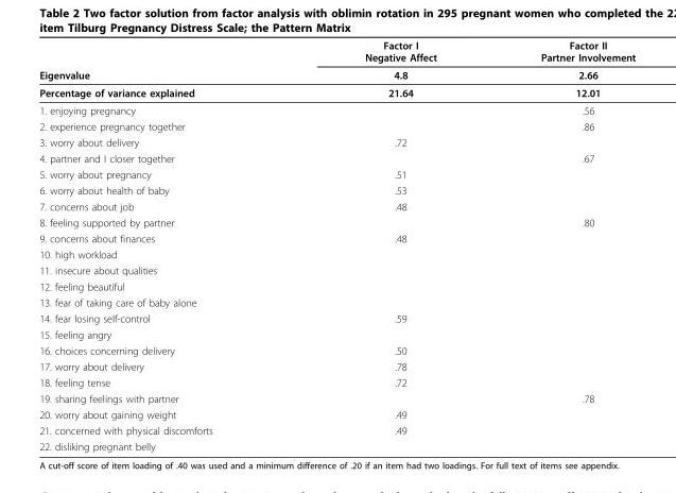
<table><thead><tr><td rowspan="2">Eigenvalue</td><td rowspan="2">Factor I Negative Affect 4.8</td><td rowspan="2">Factor II Partner Involvement 2.66</td></tr><tr></tr></thead><tbody><tr><td>Percentage of variance explained</td><td>21.64</td><td>12.01</td></tr><tr><td>1. enjoying pregnancy</td><td></td><td>.56</td></tr><tr><td>2. experience pregnancy together</td><td></td><td>.86</td></tr><tr><td>3. worry about delivery</td><td>.72</td><td></td></tr><tr><td>4. partner and I closer together</td><td></td><td>.67</td></tr><tr><td>5. worry about pregnancy</td><td>.51</td><td></td></tr><tr><td>6. worry about health of baby</td><td>.53</td><td></td></tr><tr><td>7. concerns about job</td><td>.48</td><td></td></tr><tr><td>8. feeling supported by partner</td><td></td><td>.80</td></tr><tr><td>9. concerns about finances</td><td>.48</td><td></td></tr><tr><td colspan="3">10. high workload</td></tr><tr><td colspan="3">11. insecure about qualities</td></tr><tr><td colspan="3">12. feeling beautiful</td></tr><tr><td colspan="3">13. fear of taking care of baby alone</td></tr><tr><td>14. fear losing self-control</td><td>.59</td><td></td></tr><tr><td colspan="3">15. feeling angry</td></tr><tr><td>16. choices concerning delivery</td><td>.50</td><td></td></tr><tr><td>17. worry about delivery</td><td>.78</td><td></td></tr><tr><td>18. feeling tense</td><td>.72</td><td></td></tr><tr><td>19. sharing feelings with partner</td><td></td><td>.78</td></tr><tr><td>20. worry about gaining weight</td><td>.49</td><td></td></tr><tr><td>21. concerned with physical discomforts</td><td>.49</td><td></td></tr><tr><td>22. disliking pregnant belly</td><td></td><td></td></tr></tbody></table>